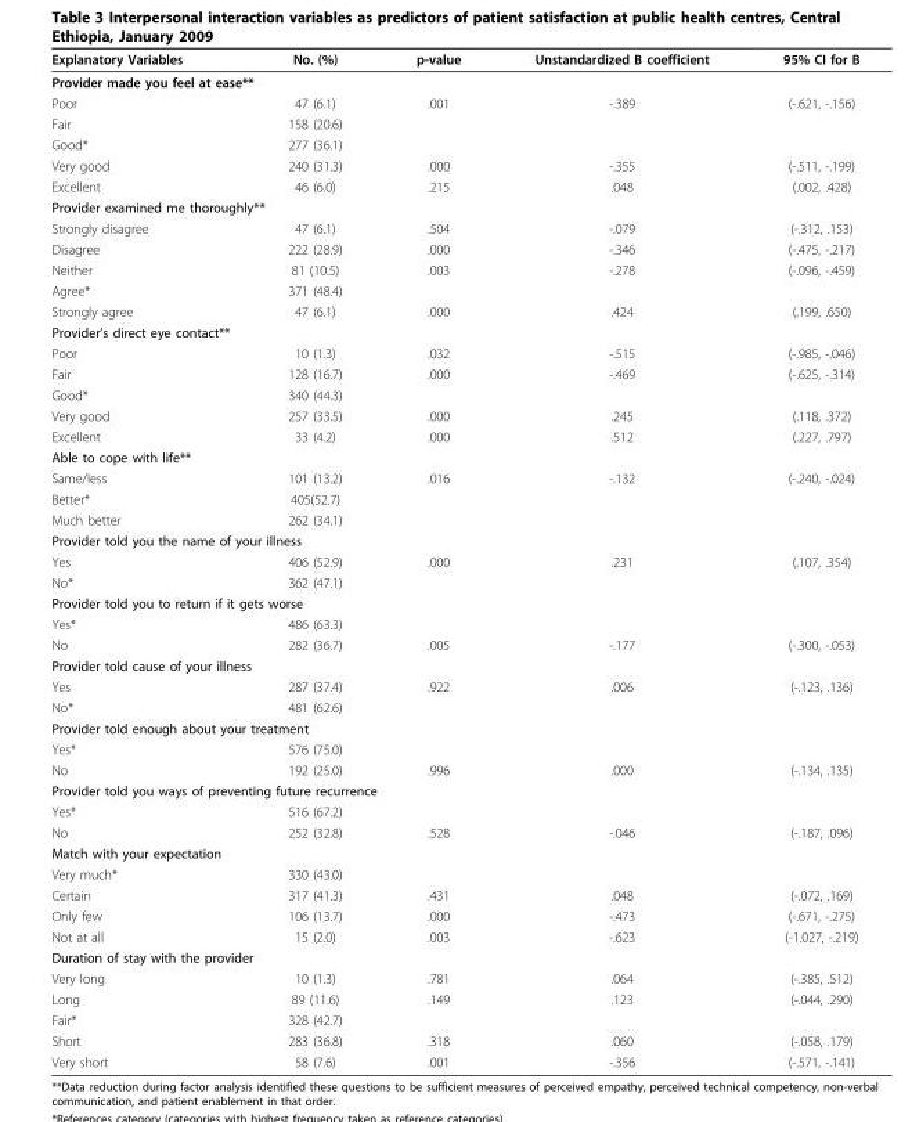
<table><thead><tr><td>Explanatory Variables</td><td>No. (%)</td><td>p-value</td><td>Unstandardized B coefficient</td><td>95% CI for B</td></tr></thead><tbody><tr><td colspan="5">Provider made you feel at ease**</td></tr><tr><td>Poor</td><td>47 (6.1)</td><td>.001</td><td>-.389</td><td>(-.621, -.156)</td></tr><tr><td>Fair</td><td>158 (20.6)</td><td></td><td></td><td></td></tr><tr><td>Good*</td><td>277 (36.1)</td><td></td><td></td><td></td></tr><tr><td>Very good</td><td>240 (31.3)</td><td>.000</td><td>-.355</td><td>(-.511, -.199)</td></tr><tr><td>Excellent</td><td>46 (6.0)</td><td>.215</td><td>.048</td><td>(.002, .428)</td></tr><tr><td colspan="5">Provider examined me thoroughly**</td></tr><tr><td>Strongly disagree</td><td>47 (6.1)</td><td>.504</td><td>-.079</td><td>(-.312, .153)</td></tr><tr><td>Disagree</td><td>222 (28.9)</td><td>.000</td><td>-.346</td><td>(-.475, -.217)</td></tr><tr><td>Neither</td><td>81 (10.5)</td><td>.003</td><td>-.278</td><td>(-.096, -.459)</td></tr><tr><td>Agree*</td><td>371 (48.4)</td><td></td><td></td><td></td></tr><tr><td>Strongly agree</td><td>47 (6.1)</td><td>.000</td><td>.424</td><td>(.199, .650)</td></tr><tr><td colspan="5">Provider’s direct eye contact**</td></tr><tr><td>Poor</td><td>10 (1.3)</td><td>.032</td><td>-.515</td><td>(-.985, -.046)</td></tr><tr><td>Fair</td><td>128 (16.7)</td><td>.000</td><td>-.469</td><td>(-.625, -.314)</td></tr><tr><td>Good*</td><td>340 (44.3)</td><td></td><td></td><td></td></tr><tr><td>Very good</td><td>257 (33.5)</td><td>.000</td><td>.245</td><td>(.118, .372)</td></tr><tr><td>Excellent</td><td>33 (4.2)</td><td>.000</td><td>.512</td><td>(.227, .797)</td></tr><tr><td colspan="5">Able to cope with life**</td></tr><tr><td>Same/less</td><td>101 (13.2)</td><td>.016</td><td>-.132</td><td>(-.240, -.024)</td></tr><tr><td>Better*</td><td>405(52.7)</td><td></td><td></td><td></td></tr><tr><td>Much better</td><td>262 (34.1)</td><td></td><td></td><td></td></tr><tr><td colspan="5">Provider told you the name of your illness</td></tr><tr><td>Yes</td><td>406 (52.9)</td><td>.000</td><td>.231</td><td>(.107, .354)</td></tr><tr><td>No*</td><td>362 (47.1)</td><td></td><td></td><td></td></tr><tr><td colspan="5">Provider told you to return if it gets worse</td></tr><tr><td>Yes*</td><td>486 (63.3)</td><td></td><td></td><td></td></tr><tr><td>No</td><td>282 (36.7)</td><td>.005</td><td>-.177</td><td>(-.300, -.053)</td></tr><tr><td colspan="5">Provider told cause of your illness</td></tr><tr><td>Yes</td><td>287 (37.4)</td><td>.922</td><td>.006</td><td>(-.123, .136)</td></tr><tr><td>No*</td><td>481 (62.6)</td><td></td><td></td><td></td></tr><tr><td colspan="5">Provider told enough about your treatment</td></tr><tr><td>Yes*</td><td>576 (75.0)</td><td></td><td></td><td></td></tr><tr><td>No</td><td>192 (25.0)</td><td>.996</td><td>.000</td><td>(-.134, .135)</td></tr><tr><td colspan="5">Provider told you ways of preventing future recurrence</td></tr><tr><td>Yes*</td><td>516 (67.2)</td><td></td><td></td><td></td></tr><tr><td>No</td><td>252 (32.8)</td><td>.528</td><td>-.046</td><td>(-.187, .096)</td></tr><tr><td colspan="5">Match with your expectation</td></tr><tr><td>Very much*</td><td>330 (43.0)</td><td></td><td></td><td></td></tr><tr><td>Certain</td><td>317 (41.3)</td><td>.431</td><td>.048</td><td>(-.072, .169)</td></tr><tr><td>Only few</td><td>106 (13.7)</td><td>.000</td><td>-.473</td><td>(-.671, -.275)</td></tr><tr><td>Not at all</td><td>15 (2.0)</td><td>.003</td><td>-.623</td><td>(-1.027, -.219)</td></tr><tr><td colspan="5">Duration of stay with the provider</td></tr><tr><td>Very long</td><td>10 (1.3)</td><td>.781</td><td>.064</td><td>(-.385, .512)</td></tr><tr><td>Long</td><td>89 (11.6)</td><td>.149</td><td>.123</td><td>(-.044, .290)</td></tr><tr><td>Fair*</td><td>328 (42.7)</td><td></td><td></td><td></td></tr><tr><td>Short</td><td>283 (36.8)</td><td>.318</td><td>.060</td><td>(-.058, .179)</td></tr><tr><td>Very short</td><td>58 (7.6)</td><td>.001</td><td>-.356</td><td>(-.571, -.141)</td></tr></tbody></table>